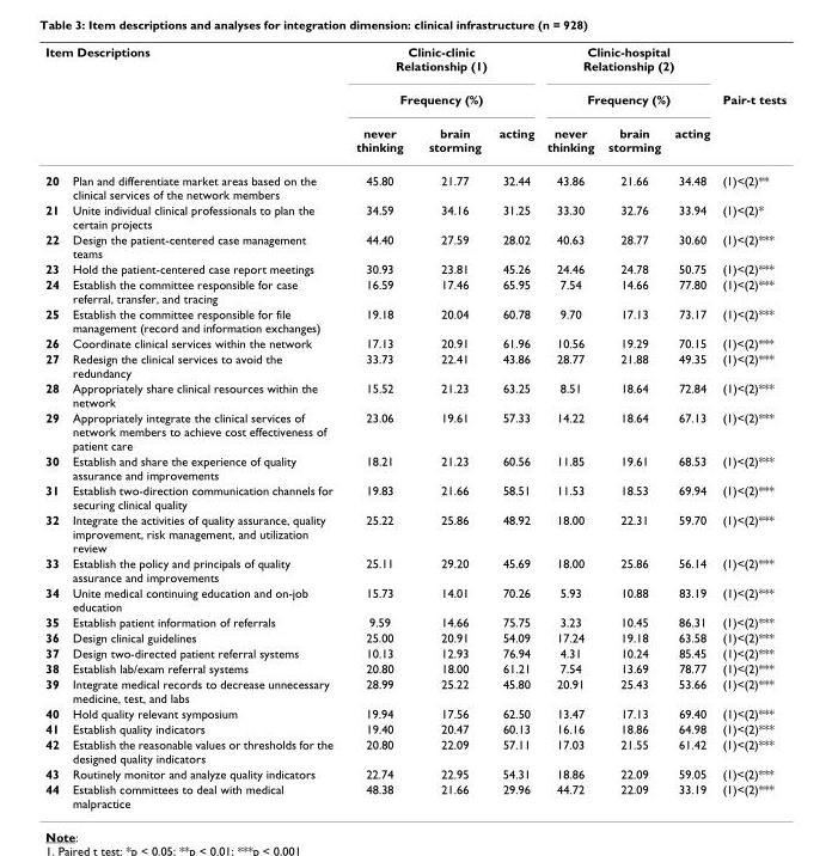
<table><thead><tr><td colspan="2">Item Descriptions</td><td rowspan="2" colspan="3">Clinic-clinic Relationship (1) Frequency (%)</td><td rowspan="2" colspan="3">Clinic-hospital Relationship (2) Frequency (%)</td><td rowspan="3">Pair-t tests</td></tr><tr><td rowspan="2"></td><td rowspan="2"></td></tr><tr><td>never thinking</td><td>brain storming</td><td>acting</td><td>never thinking</td><td>brain storming</td><td>acting</td></tr></thead><tbody><tr><td>20</td><td>Plan and differentiate market areas based on the clinical services of the network members</td><td>45.80</td><td>21.77</td><td>32.44</td><td>43.86</td><td>21.66</td><td>34.48</td><td>(1)&lt;(2)**</td></tr><tr><td>21</td><td>Unite individual clinical professionals to plan the certain projects</td><td>34.59</td><td>34.16</td><td>31.25</td><td>33.30</td><td>32.76</td><td>33.94</td><td>(1)&lt;(2)*</td></tr><tr><td>22</td><td>Design the patient-centered case management teams</td><td>44.40</td><td>27.59</td><td>28.02</td><td>40.63</td><td>28.77</td><td>30.60</td><td>(1)&lt;(2)***</td></tr><tr><td>23</td><td>Hold the patient-centered case report meetings</td><td>30.93</td><td>23.81</td><td>45.26</td><td>24.46</td><td>24.78</td><td>50.75</td><td>(1)&lt;(2)***</td></tr><tr><td>24</td><td>Establish the committee responsible for case referral, transfer, and tracing</td><td>16.59</td><td>17.46</td><td>65.95</td><td>7.54</td><td>14.66</td><td>77.80</td><td>(1)&lt;(2)***</td></tr><tr><td>25</td><td>Establish the committee responsible for file management (record and information exchanges)</td><td>19.18</td><td>20.04</td><td>60.78</td><td>9.70</td><td>17.13</td><td>73.17</td><td>(1)&lt;(2)***</td></tr><tr><td>26</td><td>Coordinate clinical services within the network</td><td>17.13</td><td>20.91</td><td>61.96</td><td>10.56</td><td>19.29</td><td>70.15</td><td>(1)&lt;(2)***</td></tr><tr><td>27</td><td>Redesign the clinical services to avoid the redundancy</td><td>33.73</td><td>22.41</td><td>43.86</td><td>28.77</td><td>21.88</td><td>49.35</td><td>(1)&lt;(2)***</td></tr><tr><td>28</td><td>Appropriately share clinical resources within the network</td><td>15.52</td><td>21.23</td><td>63.25</td><td>8.51</td><td>18.64</td><td>72.84</td><td>(1)&lt;(2)***</td></tr><tr><td>29</td><td>Appropriately integrate the clinical services of network members to achieve cost effectiveness of patient care</td><td>23.06</td><td>19.61</td><td>57.33</td><td>14.22</td><td>18.64</td><td>67.13</td><td>(1)&lt;(2)***</td></tr><tr><td>30</td><td>Establish and share the experience of quality assurance and improvements</td><td>18.21</td><td>21.23</td><td>60.56</td><td>11.85</td><td>19.61</td><td>68.53</td><td>(1)&lt;(2)***</td></tr><tr><td>31</td><td>Establish two-direction communication channels for securing clinical quality</td><td>19.83</td><td>21.66</td><td>58.51</td><td>11.53</td><td>18.53</td><td>69.94</td><td>(1)&lt;(2)***</td></tr><tr><td>32</td><td>Integrate the activities of quality assurance, quality improvement, risk management, and utilization review</td><td>25.22</td><td>25.86</td><td>48.92</td><td>18.00</td><td>22.31</td><td>59.70</td><td>(1)&lt;(2)***</td></tr><tr><td>33</td><td>Establish the policy and principals of quality assurance and improvements</td><td>25.11</td><td>29.20</td><td>45.69</td><td>18.00</td><td>25.86</td><td>56.14</td><td>(1)&lt;(2)***</td></tr><tr><td>34</td><td>Unite medical continuing education and on-job education</td><td>15.73</td><td>14.01</td><td>70.26</td><td>5.93</td><td>10.88</td><td>83.19</td><td>(1)&lt;(2)***</td></tr><tr><td>35</td><td>Establish patient information of referrals</td><td>9.59</td><td>14.66</td><td>75.75</td><td>3.23</td><td>10.45</td><td>86.31</td><td>(1)&lt;(2)***</td></tr><tr><td>36</td><td>Design clinical guidelines</td><td>25.00</td><td>20.91</td><td>54.09</td><td>17.24</td><td>19.18</td><td>63.58</td><td>(1)&lt;(2)***</td></tr><tr><td>37</td><td>Design two-directed patient referral systems</td><td>10.13</td><td>12.93</td><td>76.94</td><td>4.31</td><td>10.24</td><td>85.45</td><td>(1)&lt;(2)***</td></tr><tr><td>38</td><td>Establish lab/exam referral systems</td><td>20.80</td><td>18.00</td><td>61.21</td><td>7.54</td><td>13.69</td><td>78.77</td><td>(1)&lt;(2)***</td></tr><tr><td>39</td><td>Integrate medical records to decrease unnecessary medicine, test, and labs</td><td>28.99</td><td>25.22</td><td>45.80</td><td>20.91</td><td>25.43</td><td>53.66</td><td>(1)&lt;(2)***</td></tr><tr><td>40</td><td>Hold quality relevant symposium</td><td>19.94</td><td>17.56</td><td>62.50</td><td>13.47</td><td>17.13</td><td>69.40</td><td>(1)&lt;(2)***</td></tr><tr><td>41</td><td>Establish quality indicators</td><td>19.40</td><td>20.47</td><td>60.13</td><td>16.16</td><td>18.86</td><td>64.98</td><td>(1)&lt;(2)***</td></tr><tr><td>42</td><td>Establish the reasonable values or thresholds for the designed quality indicators</td><td>20.80</td><td>22.09</td><td>57.11</td><td>17.03</td><td>21.55</td><td>61.42</td><td>(1)&lt;(2)***</td></tr><tr><td>43</td><td>Routinely monitor and analyze quality indicators</td><td>22.74</td><td>22.95</td><td>54.31</td><td>18.86</td><td>22.09</td><td>59.05</td><td>(1)&lt;(2)***</td></tr><tr><td>44</td><td>Establish committees to deal with medical malpractice</td><td>48.38</td><td>21.66</td><td>29.96</td><td>44.72</td><td>22.09</td><td>33.19</td><td>(1)&lt;(2)***</td></tr></tbody></table>